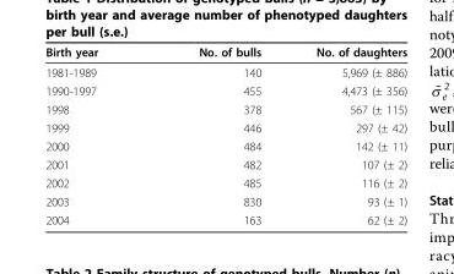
<table><thead><tr><td>Birth year</td><td>No. of bulls</td><td>No. of daughters</td></tr></thead><tbody><tr><td>1981-1989</td><td>140</td><td>5,969 (± 886)</td></tr><tr><td>1990-1997</td><td>455</td><td>4,473 (± 356)</td></tr><tr><td>1998</td><td>378</td><td>567 (± 115)</td></tr><tr><td>1999</td><td>446</td><td>297 (± 42)</td></tr><tr><td>2000</td><td>484</td><td>142 (± 11)</td></tr><tr><td>2001</td><td>482</td><td>107 (± 2)</td></tr><tr><td>2002</td><td>485</td><td>116 (± 2)</td></tr><tr><td>2003</td><td>830</td><td>93 (± 1)</td></tr><tr><td>2004</td><td>163</td><td>62 (± 2)</td></tr></tbody></table>